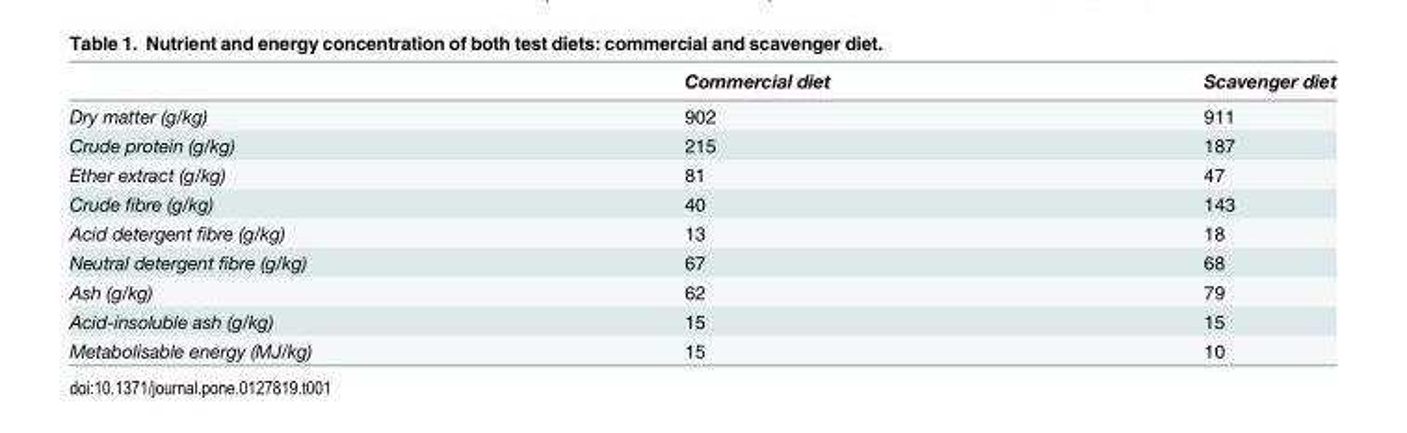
<table><thead><tr><td></td><td>Commercial diet</td><td>Scavenger diet</td></tr></thead><tbody><tr><td>Dry matter (g/kg)</td><td>902</td><td>911</td></tr><tr><td>Crude protein (g/kg)</td><td>215</td><td>187</td></tr><tr><td>Ether extract (g/kg)</td><td>81</td><td>47</td></tr><tr><td>Crude fibre (g/kg)</td><td>40</td><td>143</td></tr><tr><td>Acid detergent fibre (g/kg)</td><td>13</td><td>18</td></tr><tr><td>Neutral detergent fibre (g/kg)</td><td>67</td><td>68</td></tr><tr><td>Ash (g/kg)</td><td>62</td><td>79</td></tr><tr><td>Acid-insoluble ash (g/kg)</td><td>15</td><td>15</td></tr><tr><td>Metabolisable energy (MJ/kg)</td><td>15</td><td>10</td></tr></tbody></table>